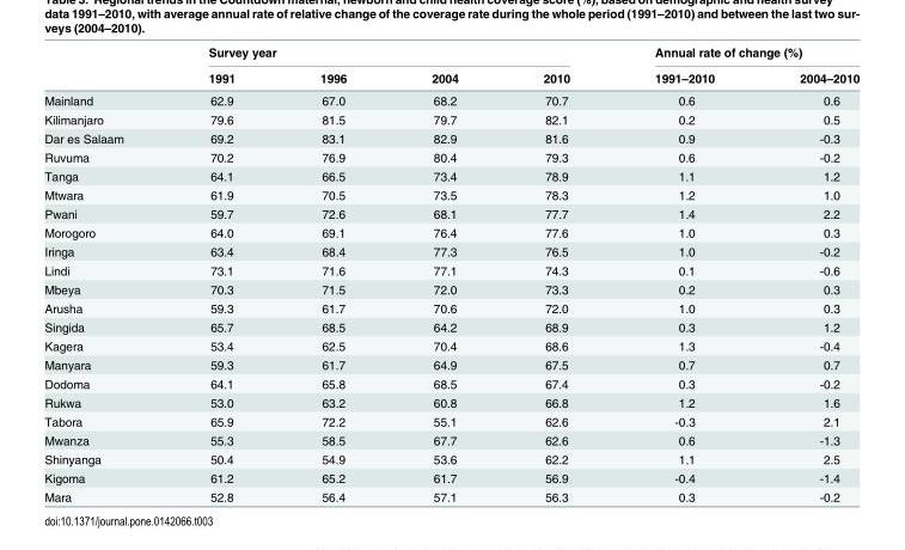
<table><thead><tr><td rowspan="2"></td><td colspan="4">Survey year</td><td colspan="2">Annual rate of change (%)</td></tr><tr><td>1991</td><td>1996</td><td>2004</td><td>2010</td><td>1991–2010</td><td>2004–2010</td></tr></thead><tbody><tr><td>Mainland</td><td>62.9</td><td>67.0</td><td>68.2</td><td>70.7</td><td>0.6</td><td>0.6</td></tr><tr><td>Kilimanjaro</td><td>79.6</td><td>81.5</td><td>79.7</td><td>82.1</td><td>0.2</td><td>0.5</td></tr><tr><td>Dar es Salaam</td><td>69.2</td><td>83.1</td><td>82.9</td><td>81.6</td><td>0.9</td><td>-0.3</td></tr><tr><td>Ruvuma</td><td>70.2</td><td>76.9</td><td>80.4</td><td>79.3</td><td>0.6</td><td>-0.2</td></tr><tr><td>Tanga</td><td>64.1</td><td>66.5</td><td>73.4</td><td>78.9</td><td>1.1</td><td>1.2</td></tr><tr><td>Mtwara</td><td>61.9</td><td>70.5</td><td>73.5</td><td>78.3</td><td>1.2</td><td>1.0</td></tr><tr><td>Pwani</td><td>59.7</td><td>72.6</td><td>68.1</td><td>77.7</td><td>1.4</td><td>2.2</td></tr><tr><td>Morogoro</td><td>64.0</td><td>69.1</td><td>76.4</td><td>77.6</td><td>1.0</td><td>0.3</td></tr><tr><td>Iringa</td><td>63.4</td><td>68.4</td><td>77.3</td><td>76.5</td><td>1.0</td><td>-0.2</td></tr><tr><td>Lindi</td><td>73.1</td><td>71.6</td><td>77.1</td><td>74.3</td><td>0.1</td><td>-0.6</td></tr><tr><td>Mbeya</td><td>70.3</td><td>71.5</td><td>72.0</td><td>73.3</td><td>0.2</td><td>0.3</td></tr><tr><td>Arusha</td><td>59.3</td><td>61.7</td><td>70.6</td><td>72.0</td><td>1.0</td><td>0.3</td></tr><tr><td>Singida</td><td>65.7</td><td>68.5</td><td>64.2</td><td>68.9</td><td>0.3</td><td>1.2</td></tr><tr><td>Kagera</td><td>53.4</td><td>62.5</td><td>70.4</td><td>68.6</td><td>1.3</td><td>-0.4</td></tr><tr><td>Manyara</td><td>59.3</td><td>61.7</td><td>64.9</td><td>67.5</td><td>0.7</td><td>0.7</td></tr><tr><td>Dodoma</td><td>64.1</td><td>65.8</td><td>68.5</td><td>67.4</td><td>0.3</td><td>-0.2</td></tr><tr><td>Rukwa</td><td>53.0</td><td>63.2</td><td>60.8</td><td>66.8</td><td>1.2</td><td>1.6</td></tr><tr><td>Tabora</td><td>65.9</td><td>72.2</td><td>55.1</td><td>62.6</td><td>-0.3</td><td>2.1</td></tr><tr><td>Mwanza</td><td>55.3</td><td>58.5</td><td>67.7</td><td>62.6</td><td>0.6</td><td>-1.3</td></tr><tr><td>Shinyanga</td><td>50.4</td><td>54.9</td><td>53.6</td><td>62.2</td><td>1.1</td><td>2.5</td></tr><tr><td>Kigoma</td><td>61.2</td><td>65.2</td><td>61.7</td><td>56.9</td><td>-0.4</td><td>-1.4</td></tr><tr><td>Mara</td><td>52.8</td><td>56.4</td><td>57.1</td><td>56.3</td><td>0.3</td><td>-0.2</td></tr></tbody></table>